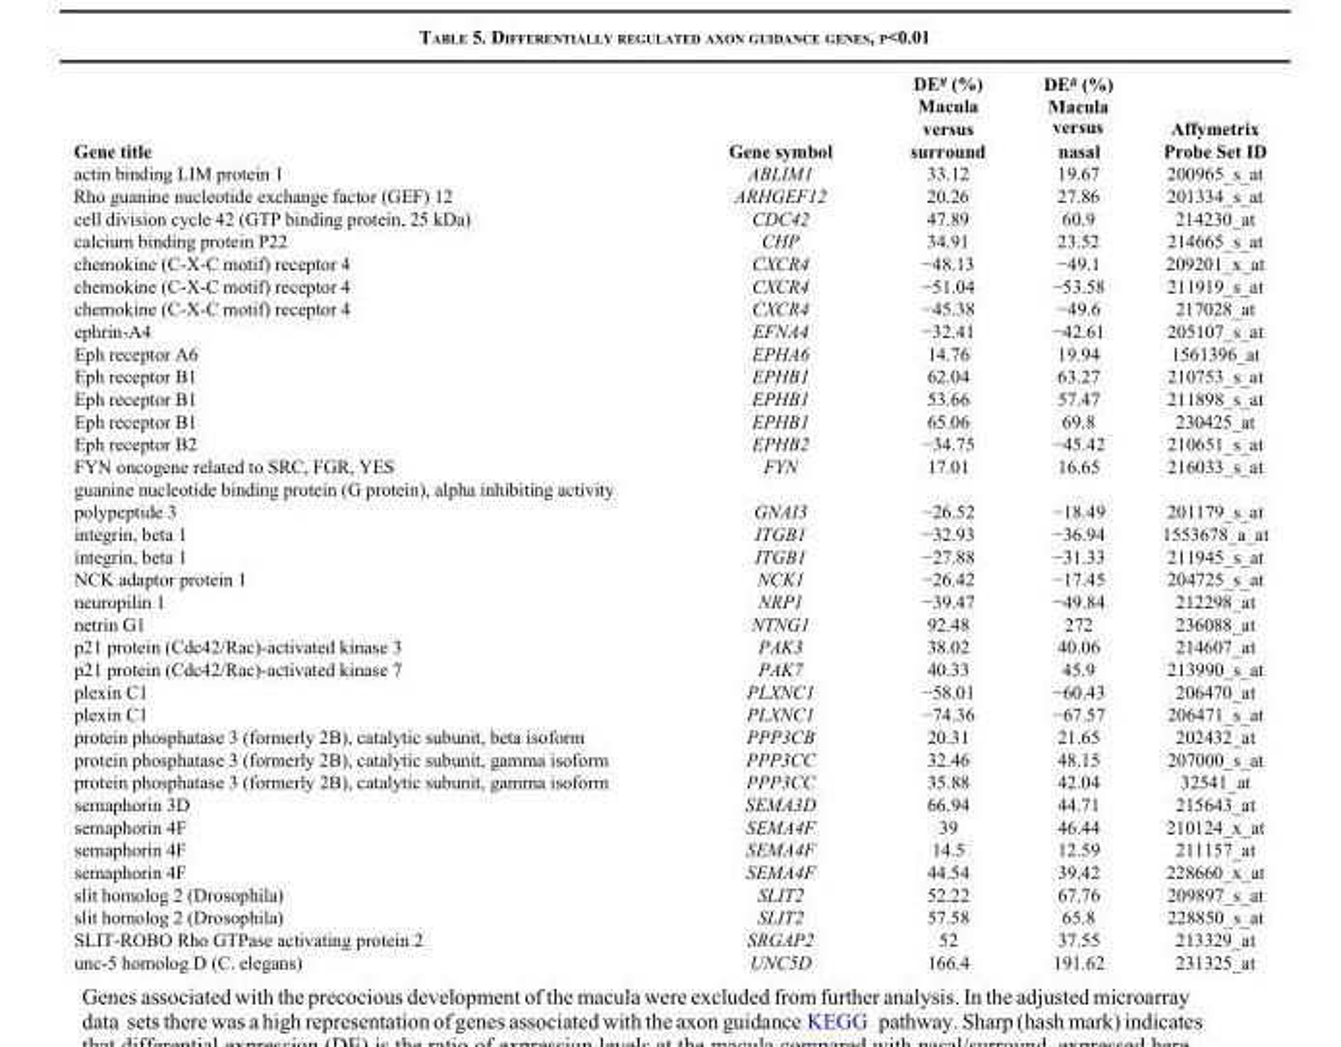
<table><thead><tr><td>Gene title</td><td>Gene symbol</td><td>DE<sup>#</sup> (%) Macula versus surround</td><td>DE<sup>#</sup> (%) Macula versus nasal</td><td>Affymetrix Probe Set ID</td></tr></thead><tbody><tr><td>actin binding LIM protein 1</td><td>ABLIM1</td><td>33.12</td><td>19.67</td><td>200965_s_at</td></tr><tr><td>Rho guanine nucleotide exchange factor (GEF) 12</td><td>ARHGEF12</td><td>20.26</td><td>27.86</td><td>201334_s_at</td></tr><tr><td>cell division cycle 42 (GTP binding protein, 25 kDa)</td><td>CDC42</td><td>47.89</td><td>60.9</td><td>214230_at</td></tr><tr><td>calcium binding protein P22</td><td>CHP</td><td>34.91</td><td>23.52</td><td>214665_s_at</td></tr><tr><td>chemokine (C-X-C motif) receptor 4</td><td>CXCR4</td><td>−48.13</td><td>−49.1</td><td>209201_x_at</td></tr><tr><td>chemokine (C-X-C motif) receptor 4</td><td>CXCR4</td><td>−51.04</td><td>−53.58</td><td>211919_s_at</td></tr><tr><td>chemokine (C-X-C motif) receptor 4</td><td>CXCR4</td><td>−45.38</td><td>−49.6</td><td>217028_at</td></tr><tr><td>ephrin-A4</td><td>EFNA4</td><td>−32.41</td><td>−42.61</td><td>205107_s_at</td></tr><tr><td>Eph receptor A6</td><td>EPHA6</td><td>14.76</td><td>19.94</td><td>1561396_at</td></tr><tr><td>Eph receptor B1</td><td>EPHB1</td><td>62.04</td><td>63.27</td><td>210753_s_at</td></tr><tr><td>Eph receptor B1</td><td>EPHB1</td><td>53.66</td><td>57.47</td><td>211898_s_at</td></tr><tr><td>Eph receptor B1</td><td>EPHB1</td><td>65.06</td><td>69.8</td><td>230425_at</td></tr><tr><td>Eph receptor B2</td><td>EPHB2</td><td>−34.75</td><td>−45.42</td><td>210651_s_at</td></tr><tr><td>FYN oncogene related to SRC, FGR, YES</td><td>FYN</td><td>17.01</td><td>16.65</td><td>216033_s_at</td></tr><tr><td>guanine nucleotide binding protein (G protein), alpha inhibiting activity polypeptide 3</td><td>GNAI3</td><td>−26.52</td><td>−18.49</td><td>201179_s_at</td></tr><tr><td>integrin, beta 1</td><td>ITGB1</td><td>−32.93</td><td>−36.94</td><td>1553678_a_at</td></tr><tr><td>integrin, beta 1</td><td>ITGB1</td><td>−27.88</td><td>−31.33</td><td>211945_s_at</td></tr><tr><td>NCK adaptor protein 1</td><td>NCK1</td><td>−26.42</td><td>−17.45</td><td>204725_s_at</td></tr><tr><td>neuropilin 1</td><td>NRP1</td><td>−39.47</td><td>−49.84</td><td>212298_at</td></tr><tr><td>netrin G1</td><td>NTNG1</td><td>92.48</td><td>272</td><td>236088_at</td></tr><tr><td>p21 protein (Cdc42/Rac)-activated kinase 3</td><td>PAK3</td><td>38.02</td><td>40.06</td><td>214607_at</td></tr><tr><td>p21 protein (Cdc42/Rac)-activated kinase 7</td><td>PAK7</td><td>40.33</td><td>45.9</td><td>213990_s_at</td></tr><tr><td>plexin C1</td><td>PLXNC1</td><td>−58.01</td><td>−60.43</td><td>206470_at</td></tr><tr><td>plexin C1</td><td>PLXNC1</td><td>−74.36</td><td>−67.57</td><td>206471_s_at</td></tr><tr><td>protein phosphatase 3 (formerly 2B), catalytic subunit, beta isoform</td><td>PPP3CB</td><td>20.31</td><td>21.65</td><td>202432_at</td></tr><tr><td>protein phosphatase 3 (formerly 2B), catalytic subunit, gamma isoform</td><td>PPP3CC</td><td>32.46</td><td>48.15</td><td>207000_s_at</td></tr><tr><td>protein phosphatase 3 (formerly 2B), catalytic subunit, gamma isoform</td><td>PPP3CC</td><td>35.88</td><td>42.04</td><td>32541_at</td></tr><tr><td>semaphorin 3D</td><td>SEMA3D</td><td>66.94</td><td>44.71</td><td>215643_at</td></tr><tr><td>semaphorin 4F</td><td>SEMA4F</td><td>39</td><td>46.44</td><td>210124_x_at</td></tr><tr><td>semaphorin 4F</td><td>SEMA4F</td><td>14.5</td><td>12.59</td><td>211157_at</td></tr><tr><td>semaphorin 4F</td><td>SEMA4F</td><td>44.54</td><td>39.42</td><td>228660_x_at</td></tr><tr><td>slit homolog 2 (Drosophila)</td><td>SLIT2</td><td>52.22</td><td>67.76</td><td>209897_s_at</td></tr><tr><td>slit homolog 2 (Drosophila)</td><td>SLIT2</td><td>57.58</td><td>65.8</td><td>228850_s_at</td></tr><tr><td>SLIT-ROBO Rho GTPase activating protein 2</td><td>SRGAP2</td><td>52</td><td>37.55</td><td>213329_at</td></tr><tr><td>unc-5 homolog D (C. elegans)</td><td>UNC5D</td><td>166.4</td><td>191.62</td><td>231325_at</td></tr></tbody></table>